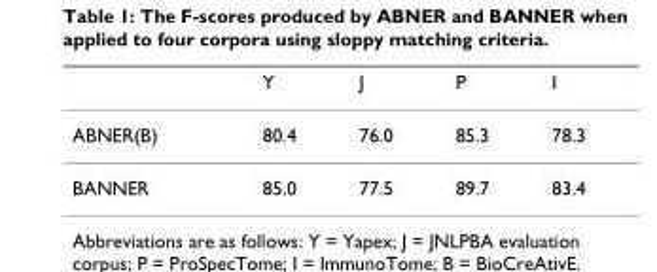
<table><thead><tr><td></td><td>Y</td><td>J</td><td>P</td><td>I</td></tr></thead><tbody><tr><td>ABNER(B)</td><td>80.4</td><td>76.0</td><td>85.3</td><td>78.3</td></tr><tr><td>BANNER</td><td>85.0</td><td>77.5</td><td>89.7</td><td>83.4</td></tr></tbody></table>